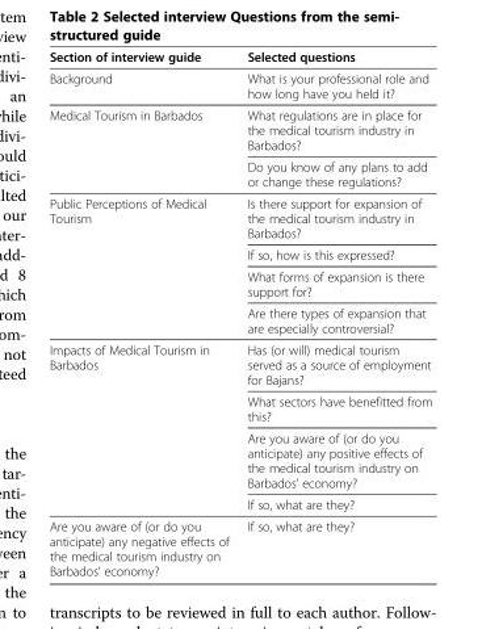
<table><thead><tr><td>Section of interview guide</td><td>Selected questions</td></tr></thead><tbody><tr><td>Background</td><td>What is your professional role and how long have you held it?</td></tr><tr><td rowspan="2">Medical Tourism in Barbados</td><td>What regulations are in place for the medical tourism industry in Barbados?</td></tr><tr><td>Do you know of any plans to add or change these regulations?</td></tr><tr><td rowspan="4">Public Perceptions of Medical Tourism</td><td>Is there support for expansion of the medical tourism industry in Barbados?</td></tr><tr><td>If so, how is this expressed?</td></tr><tr><td>What forms of expansion is there support for?</td></tr><tr><td>Are there types of expansion that are especially controversial?</td></tr><tr><td rowspan="4">Impacts of Medical Tourism in Barbados</td><td>Has (or will) medical tourism served as a source of employment for Bajans?</td></tr><tr><td>What sectors have benefitted from this?</td></tr><tr><td>Are you aware of (or do you anticipate) any positive effects of the medical tourism industry on Barbados’ economy?</td></tr><tr><td>If so, what are they?</td></tr><tr><td>Are you aware of (or do you anticipate) any negative effects of the medical tourism industry on Barbados’ economy?</td><td>If so, what are they?</td></tr></tbody></table>